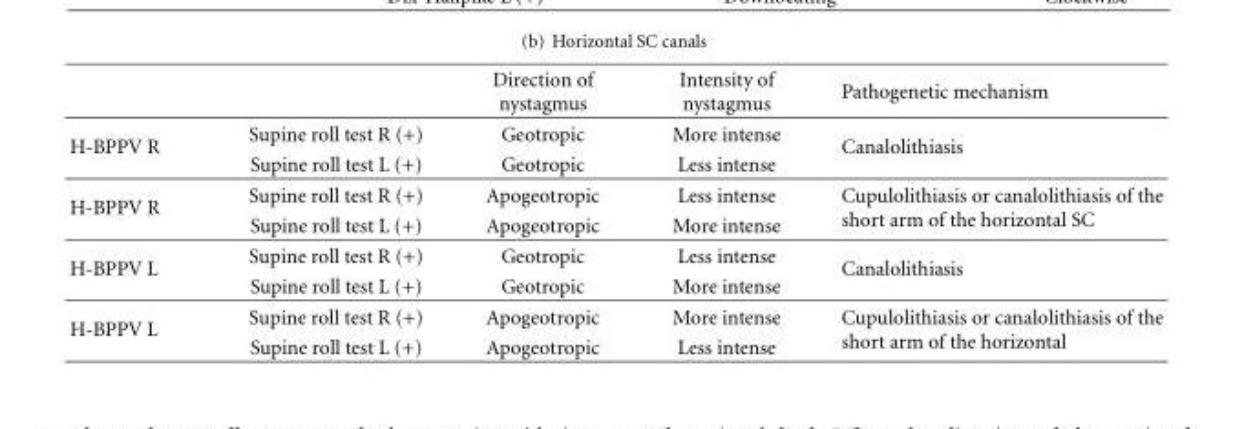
<table><thead><tr><td></td><td></td><td>Direction of nystagmus</td><td>Intensity of nystagmus</td><td>Pathogenetic mechanism</td></tr></thead><tbody><tr><td rowspan="2">H-BPPV R</td><td>Supine roll test R (+)</td><td>Geotropic</td><td>More intense</td><td rowspan="2">Canalolithiasis</td></tr><tr><td>Supine roll test L (+)</td><td>Geotropic</td><td>Less intense</td></tr><tr><td rowspan="2">H-BPPV R</td><td>Supine roll test R (+)</td><td>Apogeotropic</td><td>Less intense</td><td rowspan="2">Cupulolithiasis or canalolithiasis of the short arm of the horizontal SC</td></tr><tr><td>Supine roll test L (+)</td><td>Apogeotropic</td><td>More intense</td></tr><tr><td rowspan="2">H-BPPV L</td><td>Supine roll test R (+)</td><td>Geotropic</td><td>Less intense</td><td rowspan="2">Canalolithiasis</td></tr><tr><td>Supine roll test L (+)</td><td>Geotropic</td><td>More intense</td></tr><tr><td rowspan="2">H-BPPV L</td><td>Supine roll test R (+)</td><td>Apogeotropic</td><td>More intense</td><td rowspan="2">Cupulolithiasis or canalolithiasis of the short arm of the horizontal</td></tr><tr><td>Supine roll test L (+)</td><td>Apogeotropic</td><td>Less intense</td></tr></tbody></table>